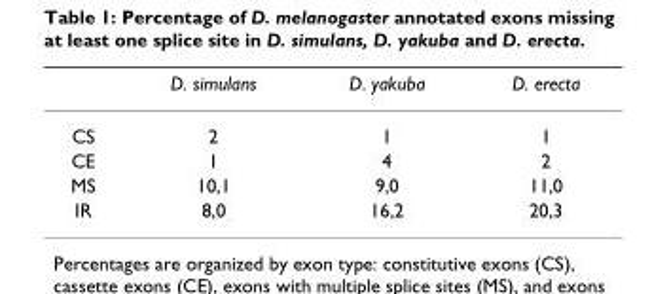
<table><thead><tr><td></td><td>D. simulans</td><td>D. yakuba</td><td>D. erecta</td></tr></thead><tbody><tr><td>CS</td><td>2</td><td>1</td><td>1</td></tr><tr><td>CE</td><td>1</td><td>4</td><td>2</td></tr><tr><td>MS</td><td>10,1</td><td>9,0</td><td>11,0</td></tr><tr><td>IR</td><td>8,0</td><td>16,2</td><td>20,3</td></tr></tbody></table>